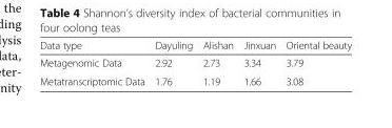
<table><thead><tr><td>Data type</td><td>Dayuling</td><td>Alishan</td><td>Jinxuan</td><td>Oriental beauty</td></tr></thead><tbody><tr><td>Metagenomic Data</td><td>2.92</td><td>2.73</td><td>3.34</td><td>3.79</td></tr><tr><td>Metatranscriptomic Data</td><td>1.76</td><td>1.19</td><td>1.66</td><td>3.08</td></tr></tbody></table>